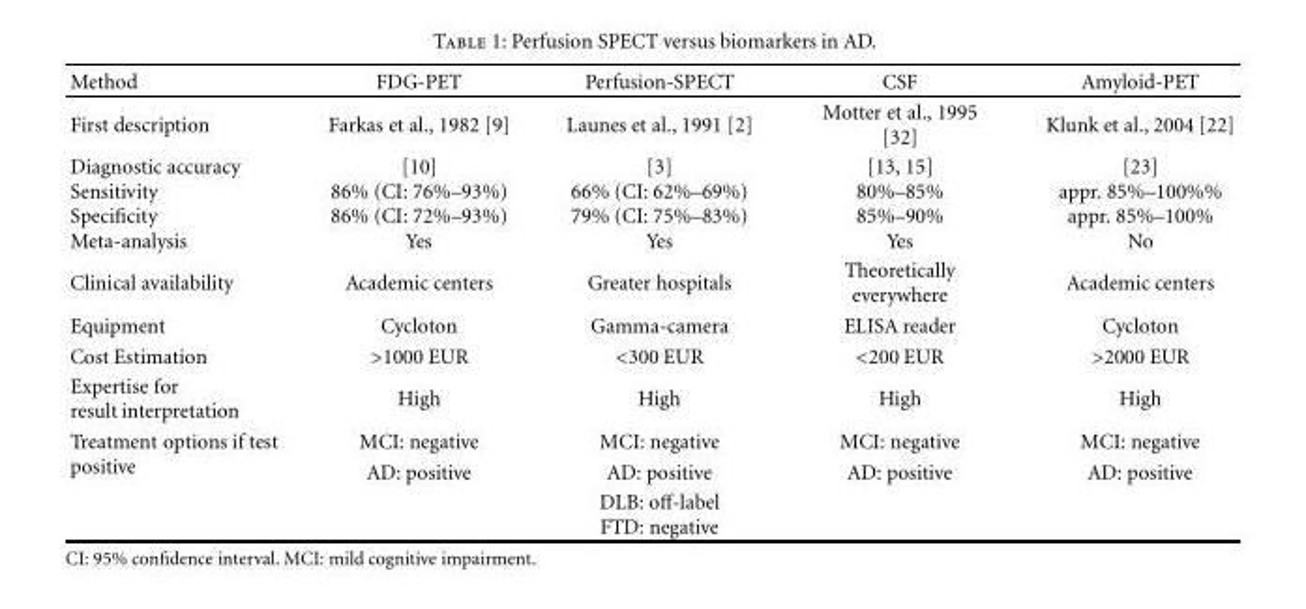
<table><thead><tr><td>Method</td><td>FDG-PET</td><td>Perfusion-SPECT</td><td>CSF</td><td>Amyloid-PET</td></tr></thead><tbody><tr><td>First description</td><td>Farkas et al., 1982 [9]</td><td>Launes et al., 1991 [2]</td><td>Motter et al., 1995 [32]</td><td>Klunk et al., 2004 [22]</td></tr><tr><td>Diagnostic accuracy Sensitivity Specificity Meta-analysis</td><td>[10] 86% (CI: 76%–93%) 86% (CI: 72%–93%) Yes</td><td>[3] 66% (CI: 62%–69%) 79% (CI: 75%–83%) Yes</td><td>[13, 15] 80%–85% 85%–90% Yes</td><td>[23] appr. 85%–100%% appr. 85%–100% No</td></tr><tr><td>Clinical availability</td><td>Academic centers</td><td>Greater hospitals</td><td>Theoretically everywhere</td><td>Academic centers</td></tr><tr><td>Equipment</td><td>Cycloton</td><td>Gamma-camera</td><td>ELISA reader</td><td>Cycloton</td></tr><tr><td>Cost Estimation</td><td>&gt;1000 EUR</td><td>&lt;300 EUR</td><td>&lt;200 EUR</td><td>&gt;2000 EUR</td></tr><tr><td>Expertise for result interpretation</td><td>High</td><td>High</td><td>High</td><td>High</td></tr><tr><td rowspan="3">Treatment options if test positive</td><td>MCI: negative</td><td>MCI: negative</td><td>MCI: negative</td><td>MCI: negative</td></tr><tr><td>AD: positive</td><td>AD: positive</td><td>AD: positive</td><td>AD: positive</td></tr><tr><td></td><td>DLB: off-label FTD: negative</td><td></td><td></td></tr></tbody></table>